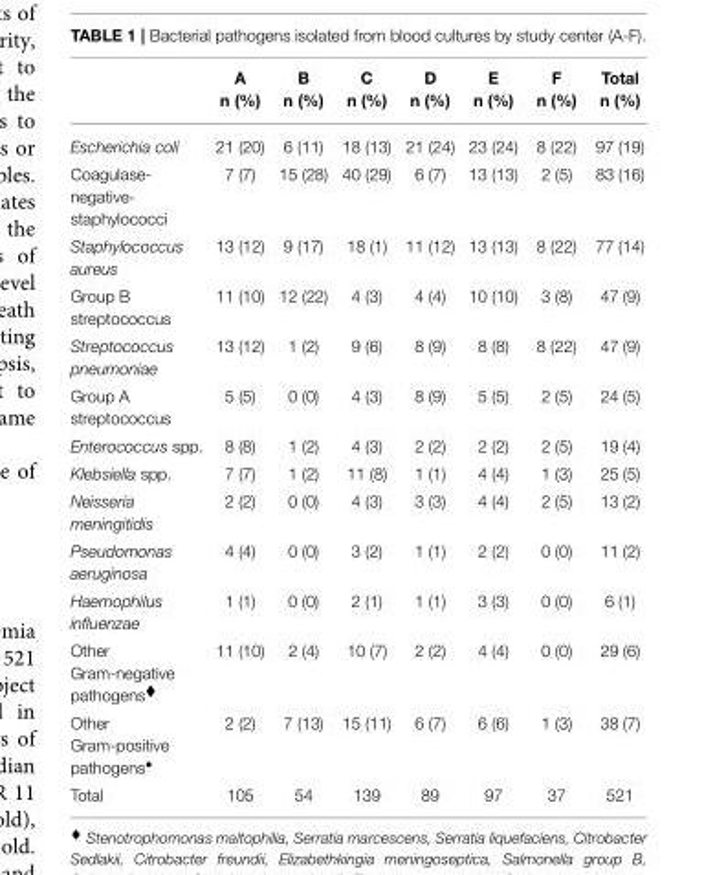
<table><thead><tr><td></td><td>A n (%)</td><td>B n (%)</td><td>C n (%)</td><td>D n (%)</td><td>E n (%)</td><td>F n (%)</td><td>Total n (%)</td></tr></thead><tbody><tr><td>Escherichia coli</td><td>21 (20)</td><td>6 (11)</td><td>18 (13)</td><td>21 (24)</td><td>23 (24)</td><td>8 (22)</td><td>97 (19)</td></tr><tr><td>Coagulase- negative- staphylococci</td><td>7 (7)</td><td>15 (28)</td><td>40 (29)</td><td>6 (7)</td><td>13 (13)</td><td>2 (5)</td><td>83 (16)</td></tr><tr><td>Staphylococcus aureus</td><td>13 (12)</td><td>9 (17)</td><td>18 (1)</td><td>11 (12)</td><td>13 (13)</td><td>8 (22)</td><td>77 (14)</td></tr><tr><td>Group B streptococcus</td><td>11 (10)</td><td>12 (22)</td><td>4 (3)</td><td>4 (4)</td><td>10 (10)</td><td>3 (8)</td><td>47 (9)</td></tr><tr><td>Streptococcus pneumoniae</td><td>13 (12)</td><td>1 (2)</td><td>9 (6)</td><td>8 (9)</td><td>8 (8)</td><td>8 (22)</td><td>47 (9)</td></tr><tr><td>Group A streptococcus</td><td>5 (5)</td><td>0 (0)</td><td>4 (3)</td><td>8 (9)</td><td>5 (5)</td><td>2 (5)</td><td>24 (5)</td></tr><tr><td>Enterococcus spp.</td><td>8 (8)</td><td>1 (2)</td><td>4 (3)</td><td>2 (2)</td><td>2 (2)</td><td>2 (5)</td><td>19 (4)</td></tr><tr><td>Klebsiella spp.</td><td>7 (7)</td><td>1 (2)</td><td>11 (8)</td><td>1 (1)</td><td>4 (4)</td><td>1 (3)</td><td>25 (5)</td></tr><tr><td>Neisseria meningitidis</td><td>2 (2)</td><td>0 (0)</td><td>4 (3)</td><td>3 (3)</td><td>4 (4)</td><td>2 (5)</td><td>13 (2)</td></tr><tr><td>Pseudomonas aeruginosa</td><td>4 (4)</td><td>0 (0)</td><td>3 (2)</td><td>1 (1)</td><td>2 (2)</td><td>0 (0)</td><td>11 (2)</td></tr><tr><td>Haemophilus influenzae</td><td>1 (1)</td><td>0 (0)</td><td>2 (1)</td><td>1 (1)</td><td>3 (3)</td><td>0 (0)</td><td>6 (1)</td></tr><tr><td>Other Gram-negative pathogens<sup>♦</sup></td><td>11 (10)</td><td>2 (4)</td><td>10 (7)</td><td>2 (2)</td><td>4 (4)</td><td>0 (0)</td><td>29 (6)</td></tr><tr><td>Other Gram-positive pathogens<sup>•</sup></td><td>2 (2)</td><td>7 (13)</td><td>15 (11)</td><td>6 (7)</td><td>6 (6)</td><td>1 (3)</td><td>38 (7)</td></tr><tr><td>Total</td><td>105</td><td>54</td><td>139</td><td>89</td><td>97</td><td>37</td><td>521</td></tr></tbody></table>